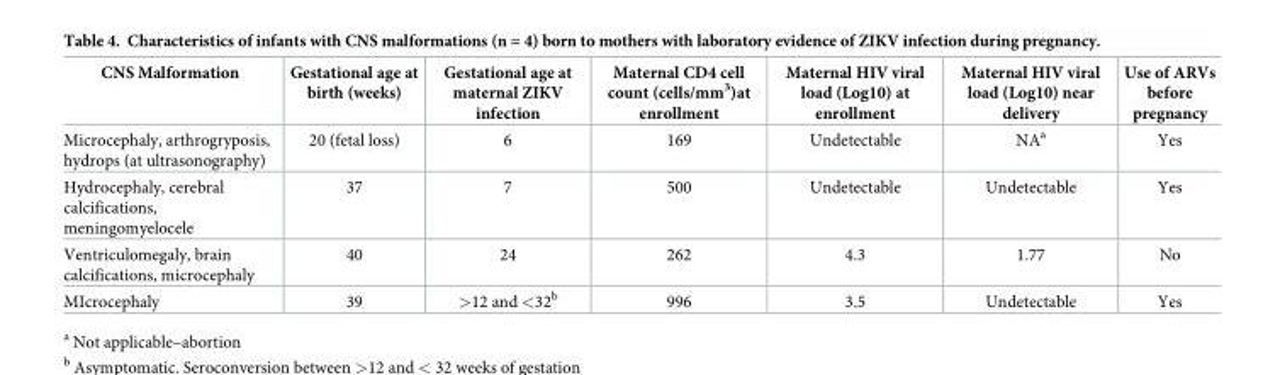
<table><thead><tr><td>CNS Malformation</td><td>Gestational age at birth (weeks)</td><td>Gestational age at maternal ZIKV infection</td><td>Maternal CD4 cell count (cells/mm<sup>3</sup>)at enrollment</td><td>Maternal HIV viral load (Log10) at enrollment</td><td>Maternal HIV viral load (Log10) near delivery</td><td>Use of ARVs before pregnancy</td></tr></thead><tbody><tr><td>Microcephaly, arthrogryposis, hydrops (at ultrasonography)</td><td>20 (fetal loss)</td><td>6</td><td>169</td><td>Undetectable</td><td>NA<sup>a</sup></td><td>Yes</td></tr><tr><td>Hydrocephaly, cerebral calcifications, meningomyelocele</td><td>37</td><td>7</td><td>500</td><td>Undetectable</td><td>Undetectable</td><td>Yes</td></tr><tr><td>Ventriculomegaly, brain calcifications, microcephaly</td><td>40</td><td>24</td><td>262</td><td>4.3</td><td>1.77</td><td>No</td></tr><tr><td>MIcrocephaly</td><td>39</td><td>&gt;12 and &lt;32<sup>b</sup></td><td>996</td><td>3.5</td><td>Undetectable</td><td>Yes</td></tr></tbody></table>